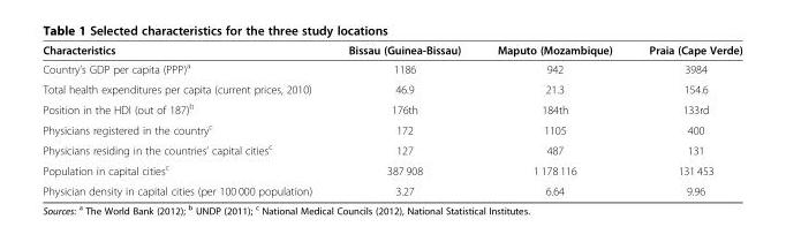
<table><thead><tr><td>Characteristics</td><td>Bissau (Guinea-Bissau)</td><td>Maputo (Mozambique)</td><td>Praia (Cape Verde)</td></tr></thead><tbody><tr><td>Country’s GDP per capita (PPP)<sup>a</sup></td><td>1186</td><td>942</td><td>3984</td></tr><tr><td>Total health expenditures per capita (current prices, 2010)</td><td>46.9</td><td>21.3</td><td>154.6</td></tr><tr><td>Position in the HDI (out of 187)<sup>b</sup></td><td>176th</td><td>184th</td><td>133rd</td></tr><tr><td>Physicians registered in the country<sup>c</sup></td><td>172</td><td>1105</td><td>400</td></tr><tr><td>Physicians residing in the countries’ capital cities<sup>c</sup></td><td>127</td><td>487</td><td>131</td></tr><tr><td>Population in capital cities<sup>c</sup></td><td>387 908</td><td>1 178 116</td><td>131 453</td></tr><tr><td>Physician density in capital cities (per 100 000 population)</td><td>3.27</td><td>6.64</td><td>9.96</td></tr></tbody></table>